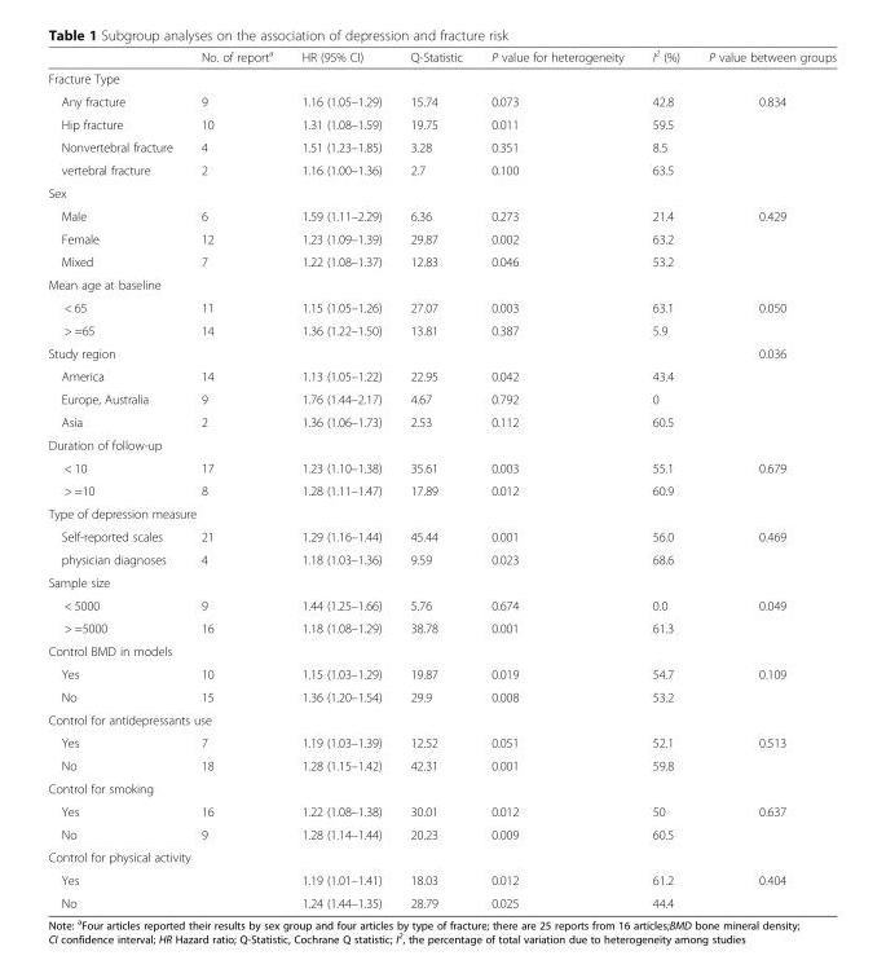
<table><thead><tr><td></td><td>No. of report<sup>a</sup></td><td>HR (95% CI)</td><td>Q-Statistic</td><td>P value for heterogeneity</td><td>I<sup>2</sup> (%)</td><td>P value between groups</td></tr></thead><tbody><tr><td colspan="7">Fracture Type</td></tr><tr><td>Any fracture</td><td>9</td><td>1.16 (1.05–1.29)</td><td>15.74</td><td>0.073</td><td>42.8</td><td>0.834</td></tr><tr><td>Hip fracture</td><td>10</td><td>1.31 (1.08–1.59)</td><td>19.75</td><td>0.011</td><td>59.5</td><td></td></tr><tr><td>Nonvertebral fracture</td><td>4</td><td>1.51 (1.23–1.85)</td><td>3.28</td><td>0.351</td><td>8.5</td><td></td></tr><tr><td>vertebral fracture</td><td>2</td><td>1.16 (1.00–1.36)</td><td>2.7</td><td>0.100</td><td>63.5</td><td></td></tr><tr><td colspan="7">Sex</td></tr><tr><td>Male</td><td>6</td><td>1.59 (1.11–2.29)</td><td>6.36</td><td>0.273</td><td>21.4</td><td>0.429</td></tr><tr><td>Female</td><td>12</td><td>1.23 (1.09–1.39)</td><td>29.87</td><td>0.002</td><td>63.2</td><td></td></tr><tr><td>Mixed</td><td>7</td><td>1.22 (1.08–1.37)</td><td>12.83</td><td>0.046</td><td>53.2</td><td></td></tr><tr><td colspan="7">Mean age at baseline</td></tr><tr><td>&lt; 65</td><td>11</td><td>1.15 (1.05–1.26)</td><td>27.07</td><td>0.003</td><td>63.1</td><td>0.050</td></tr><tr><td>&gt; =65</td><td>14</td><td>1.36 (1.22–1.50)</td><td>13.81</td><td>0.387</td><td>5.9</td><td></td></tr><tr><td colspan="6">Study region</td><td>0.036</td></tr><tr><td>America</td><td>14</td><td>1.13 (1.05–1.22)</td><td>22.95</td><td>0.042</td><td>43.4</td><td></td></tr><tr><td>Europe, Australia</td><td>9</td><td>1.76 (1.44–2.17)</td><td>4.67</td><td>0.792</td><td>0</td><td></td></tr><tr><td>Asia</td><td>2</td><td>1.36 (1.06–1.73)</td><td>2.53</td><td>0.112</td><td>60.5</td><td></td></tr><tr><td colspan="7">Duration of follow-up</td></tr><tr><td>&lt; 10</td><td>17</td><td>1.23 (1.10–1.38)</td><td>35.61</td><td>0.003</td><td>55.1</td><td>0.679</td></tr><tr><td>&gt; =10</td><td>8</td><td>1.28 (1.11–1.47)</td><td>17.89</td><td>0.012</td><td>60.9</td><td></td></tr><tr><td colspan="7">Type of depression measure</td></tr><tr><td>Self-reported scales</td><td>21</td><td>1.29 (1.16–1.44)</td><td>45.44</td><td>0.001</td><td>56.0</td><td>0.469</td></tr><tr><td>physician diagnoses</td><td>4</td><td>1.18 (1.03–1.36)</td><td>9.59</td><td>0.023</td><td>68.6</td><td></td></tr><tr><td colspan="7">Sample size</td></tr><tr><td>&lt; 5000</td><td>9</td><td>1.44 (1.25–1.66)</td><td>5.76</td><td>0.674</td><td>0.0</td><td>0.049</td></tr><tr><td>&gt; =5000</td><td>16</td><td>1.18 (1.08–1.29)</td><td>38.78</td><td>0.001</td><td>61.3</td><td></td></tr><tr><td colspan="7">Control BMD in models</td></tr><tr><td>Yes</td><td>10</td><td>1.15 (1.03–1.29)</td><td>19.87</td><td>0.019</td><td>54.7</td><td>0.109</td></tr><tr><td>No</td><td>15</td><td>1.36 (1.20–1.54)</td><td>29.9</td><td>0.008</td><td>53.2</td><td></td></tr><tr><td colspan="7">Control for antidepressants use</td></tr><tr><td>Yes</td><td>7</td><td>1.19 (1.03–1.39)</td><td>12.52</td><td>0.051</td><td>52.1</td><td>0.513</td></tr><tr><td>No</td><td>18</td><td>1.28 (1.15–1.42)</td><td>42.31</td><td>0.001</td><td>59.8</td><td></td></tr><tr><td colspan="7">Control for smoking</td></tr><tr><td>Yes</td><td>16</td><td>1.22 (1.08–1.38)</td><td>30.01</td><td>0.012</td><td>50</td><td>0.637</td></tr><tr><td>No</td><td>9</td><td>1.28 (1.14–1.44)</td><td>20.23</td><td>0.009</td><td>60.5</td><td></td></tr><tr><td colspan="7">Control for physical activity</td></tr><tr><td>Yes</td><td></td><td>1.19 (1.01–1.41)</td><td>18.03</td><td>0.012</td><td>61.2</td><td>0.404</td></tr><tr><td>No</td><td></td><td>1.24 (1.44–1.35)</td><td>28.79</td><td>0.025</td><td>44.4</td><td></td></tr></tbody></table>